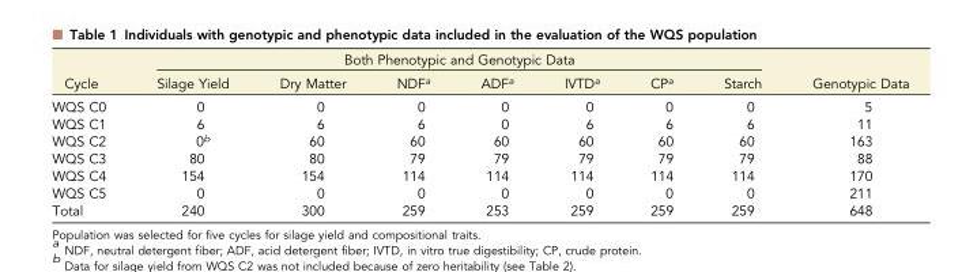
<table><thead><tr><td rowspan="2">Cycle</td><td colspan="7">Both Phenotypic and Genotypic Data</td><td rowspan="2">Genotypic Data</td></tr><tr><td>Silage Yield</td><td>Dry Matter</td><td>NDF<sup>a</sup></td><td>ADF<sup>a</sup></td><td>IVTD<sup>a</sup></td><td>CP<sup>a</sup></td><td>Starch</td></tr></thead><tbody><tr><td>WQS C0</td><td>0</td><td>0</td><td>0</td><td>0</td><td>0</td><td>0</td><td>0</td><td>5</td></tr><tr><td>WQS C1</td><td>6</td><td>6</td><td>6</td><td>0</td><td>6</td><td>6</td><td>6</td><td>11</td></tr><tr><td>WQS C2</td><td>0<sup>b</sup></td><td>60</td><td>60</td><td>60</td><td>60</td><td>60</td><td>60</td><td>163</td></tr><tr><td>WQS C3</td><td>80</td><td>80</td><td>79</td><td>79</td><td>79</td><td>79</td><td>79</td><td>88</td></tr><tr><td>WQS C4</td><td>154</td><td>154</td><td>114</td><td>114</td><td>114</td><td>114</td><td>114</td><td>170</td></tr><tr><td>WQS C5</td><td>0</td><td>0</td><td>0</td><td>0</td><td>0</td><td>0</td><td>0</td><td>211</td></tr><tr><td>Total</td><td>240</td><td>300</td><td>259</td><td>253</td><td>259</td><td>259</td><td>259</td><td>648</td></tr></tbody></table>